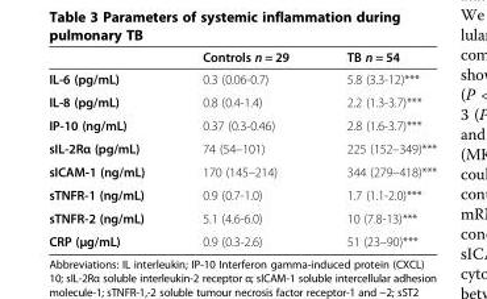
<table><thead><tr><td></td><td>Controls n = 29</td><td>TB n = 54</td></tr></thead><tbody><tr><td>IL-6 (pg/mL)</td><td>0.3 (0.06-0.7)</td><td>5.8 (3.3-12)***</td></tr><tr><td>IL-8 (pg/mL)</td><td>0.8 (0.4-1.4)</td><td>2.2 (1.3-3.7)***</td></tr><tr><td>IP-10 (ng/mL)</td><td>0.37 (0.3-0.46)</td><td>2.8 (1.6-3.7)***</td></tr><tr><td>sIL-2Rα (pg/mL)</td><td>74 (54–101)</td><td>225 (152–349)***</td></tr><tr><td>sICAM-1 (ng/mL)</td><td>170 (145–214)</td><td>344 (279–418)***</td></tr><tr><td>sTNFR-1 (ng/mL)</td><td>0.9 (0.7-1.0)</td><td>1.7 (1.1-2.0)***</td></tr><tr><td>sTNFR-2 (ng/mL)</td><td>5.1 (4.6-6.0)</td><td>10 (7.8-13)***</td></tr><tr><td>CRP (μg/mL)</td><td>0.9 (0.3-2.6)</td><td>51 (23–90)***</td></tr></tbody></table>